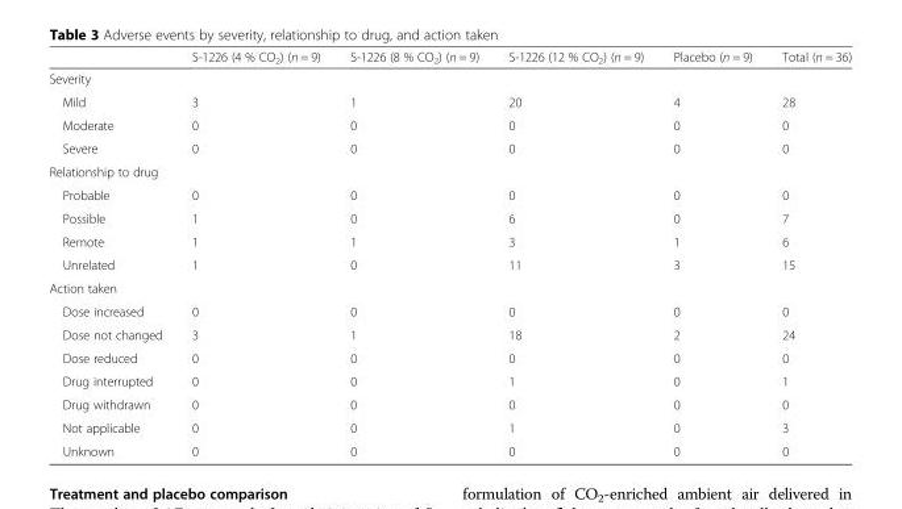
<table><thead><tr><td></td><td>S-1226 (4 % CO<sub>2</sub>) (n = 9)</td><td>S-1226 (8 % CO<sub>2</sub>) (n = 9)</td><td>S-1226 (12 % CO<sub>2</sub>) (n = 9)</td><td>Placebo (n = 9)</td><td>Total (n = 36)</td></tr></thead><tbody><tr><td colspan="6">Severity</td></tr><tr><td>Mild</td><td>3</td><td>1</td><td>20</td><td>4</td><td>28</td></tr><tr><td>Moderate</td><td>0</td><td>0</td><td>0</td><td>0</td><td>0</td></tr><tr><td>Severe</td><td>0</td><td>0</td><td>0</td><td>0</td><td>0</td></tr><tr><td colspan="6">Relationship to drug</td></tr><tr><td>Probable</td><td>0</td><td>0</td><td>0</td><td>0</td><td>0</td></tr><tr><td>Possible</td><td>1</td><td>0</td><td>6</td><td>0</td><td>7</td></tr><tr><td>Remote</td><td>1</td><td>1</td><td>3</td><td>1</td><td>6</td></tr><tr><td>Unrelated</td><td>1</td><td>0</td><td>11</td><td>3</td><td>15</td></tr><tr><td colspan="6">Action taken</td></tr><tr><td>Dose increased</td><td>0</td><td>0</td><td>0</td><td>0</td><td>0</td></tr><tr><td>Dose not changed</td><td>3</td><td>1</td><td>18</td><td>2</td><td>24</td></tr><tr><td>Dose reduced</td><td>0</td><td>0</td><td>0</td><td>0</td><td>0</td></tr><tr><td>Drug interrupted</td><td>0</td><td>0</td><td>1</td><td>0</td><td>1</td></tr><tr><td>Drug withdrawn</td><td>0</td><td>0</td><td>0</td><td>0</td><td>0</td></tr><tr><td>Not applicable</td><td>0</td><td>0</td><td>1</td><td>0</td><td>3</td></tr><tr><td>Unknown</td><td>0</td><td>0</td><td>0</td><td>0</td><td>0</td></tr></tbody></table>